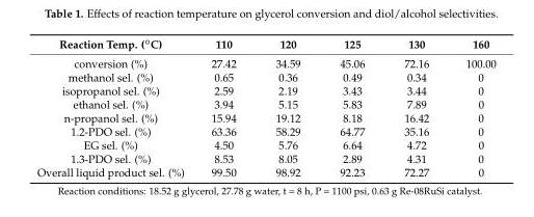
<table><thead><tr><td>Reaction Temp. (◦C)</td><td>110</td><td>120</td><td>125</td><td>130</td><td>160</td></tr></thead><tbody><tr><td>conversion (%)</td><td>27.42</td><td>34.59</td><td>45.06</td><td>72.16</td><td>100.00</td></tr><tr><td>methanol sel. (%)</td><td>0.65</td><td>0.36</td><td>0.49</td><td>0.34</td><td>0</td></tr><tr><td>isopropanol sel. (%)</td><td>2.59</td><td>2.19</td><td>3.43</td><td>3.44</td><td>0</td></tr><tr><td>ethanol sel. (%)</td><td>3.94</td><td>5.15</td><td>5.83</td><td>7.89</td><td>0</td></tr><tr><td>n-propanol sel. (%)</td><td>15.94</td><td>19.12</td><td>8.18</td><td>16.42</td><td>0</td></tr><tr><td>1.2-PDO sel. (%)</td><td>63.36</td><td>58.29</td><td>64.77</td><td>35.16</td><td>0</td></tr><tr><td>EG sel. (%)</td><td>4.50</td><td>5.76</td><td>6.64</td><td>4.72</td><td>0</td></tr><tr><td>1.3-PDO sel. (%)</td><td>8.53</td><td>8.05</td><td>2.89</td><td>4.31</td><td>0</td></tr><tr><td>Overall liquid product sel. (%)</td><td>99.50</td><td>98.92</td><td>92.23</td><td>72.27</td><td>0</td></tr></tbody></table>